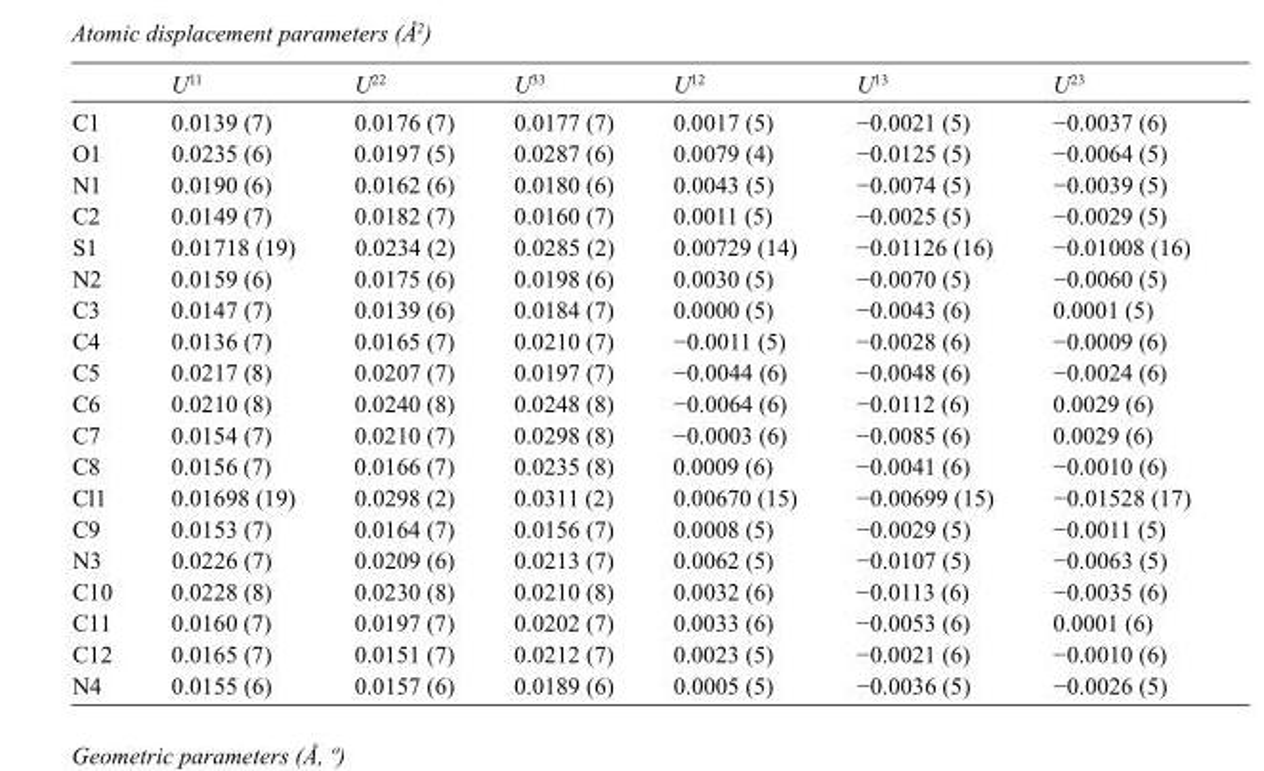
<table><thead><tr><td></td><td>U<sup>11</sup></td><td>U<sup>22</sup></td><td>U<sup>33</sup></td><td>U<sup>12</sup></td><td>U<sup>13</sup></td><td>U<sup>23</sup></td></tr></thead><tbody><tr><td>C1</td><td>0.0139 (7)</td><td>0.0176 (7)</td><td>0.0177 (7)</td><td>0.0017 (5)</td><td>−0.0021 (5)</td><td>−0.0037 (6)</td></tr><tr><td>O1</td><td>0.0235 (6)</td><td>0.0197 (5)</td><td>0.0287 (6)</td><td>0.0079 (4)</td><td>−0.0125 (5)</td><td>−0.0064 (5)</td></tr><tr><td>N1</td><td>0.0190 (6)</td><td>0.0162 (6)</td><td>0.0180 (6)</td><td>0.0043 (5)</td><td>−0.0074 (5)</td><td>−0.0039 (5)</td></tr><tr><td>C2</td><td>0.0149 (7)</td><td>0.0182 (7)</td><td>0.0160 (7)</td><td>0.0011 (5)</td><td>−0.0025 (5)</td><td>−0.0029 (5)</td></tr><tr><td>S1</td><td>0.01718 (19)</td><td>0.0234 (2)</td><td>0.0285 (2)</td><td>0.00729 (14)</td><td>−0.01126 (16)</td><td>−0.01008 (16)</td></tr><tr><td>N2</td><td>0.0159 (6)</td><td>0.0175 (6)</td><td>0.0198 (6)</td><td>0.0030 (5)</td><td>−0.0070 (5)</td><td>−0.0060 (5)</td></tr><tr><td>C3</td><td>0.0147 (7)</td><td>0.0139 (6)</td><td>0.0184 (7)</td><td>0.0000 (5)</td><td>−0.0043 (6)</td><td>0.0001 (5)</td></tr><tr><td>C4</td><td>0.0136 (7)</td><td>0.0165 (7)</td><td>0.0210 (7)</td><td>−0.0011 (5)</td><td>−0.0028 (6)</td><td>−0.0009 (6)</td></tr><tr><td>C5</td><td>0.0217 (8)</td><td>0.0207 (7)</td><td>0.0197 (7)</td><td>−0.0044 (6)</td><td>−0.0048 (6)</td><td>−0.0024 (6)</td></tr><tr><td>C6</td><td>0.0210 (8)</td><td>0.0240 (8)</td><td>0.0248 (8)</td><td>−0.0064 (6)</td><td>−0.0112 (6)</td><td>0.0029 (6)</td></tr><tr><td>C7</td><td>0.0154 (7)</td><td>0.0210 (7)</td><td>0.0298 (8)</td><td>−0.0003 (6)</td><td>−0.0085 (6)</td><td>0.0029 (6)</td></tr><tr><td>C8</td><td>0.0156 (7)</td><td>0.0166 (7)</td><td>0.0235 (8)</td><td>0.0009 (6)</td><td>−0.0041 (6)</td><td>−0.0010 (6)</td></tr><tr><td>Cl1</td><td>0.01698 (19)</td><td>0.0298 (2)</td><td>0.0311 (2)</td><td>0.00670 (15)</td><td>−0.00699 (15)</td><td>−0.01528 (17)</td></tr><tr><td>C9</td><td>0.0153 (7)</td><td>0.0164 (7)</td><td>0.0156 (7)</td><td>0.0008 (5)</td><td>−0.0029 (5)</td><td>−0.0011 (5)</td></tr><tr><td>N3</td><td>0.0226 (7)</td><td>0.0209 (6)</td><td>0.0213 (7)</td><td>0.0062 (5)</td><td>−0.0107 (5)</td><td>−0.0063 (5)</td></tr><tr><td>C10</td><td>0.0228 (8)</td><td>0.0230 (8)</td><td>0.0210 (8)</td><td>0.0032 (6)</td><td>−0.0113 (6)</td><td>−0.0035 (6)</td></tr><tr><td>C11</td><td>0.0160 (7)</td><td>0.0197 (7)</td><td>0.0202 (7)</td><td>0.0033 (6)</td><td>−0.0053 (6)</td><td>0.0001 (6)</td></tr><tr><td>C12</td><td>0.0165 (7)</td><td>0.0151 (7)</td><td>0.0212 (7)</td><td>0.0023 (5)</td><td>−0.0021 (6)</td><td>−0.0010 (6)</td></tr><tr><td>N4</td><td>0.0155 (6)</td><td>0.0157 (6)</td><td>0.0189 (6)</td><td>0.0005 (5)</td><td>−0.0036 (5)</td><td>−0.0026 (5)</td></tr></tbody></table>